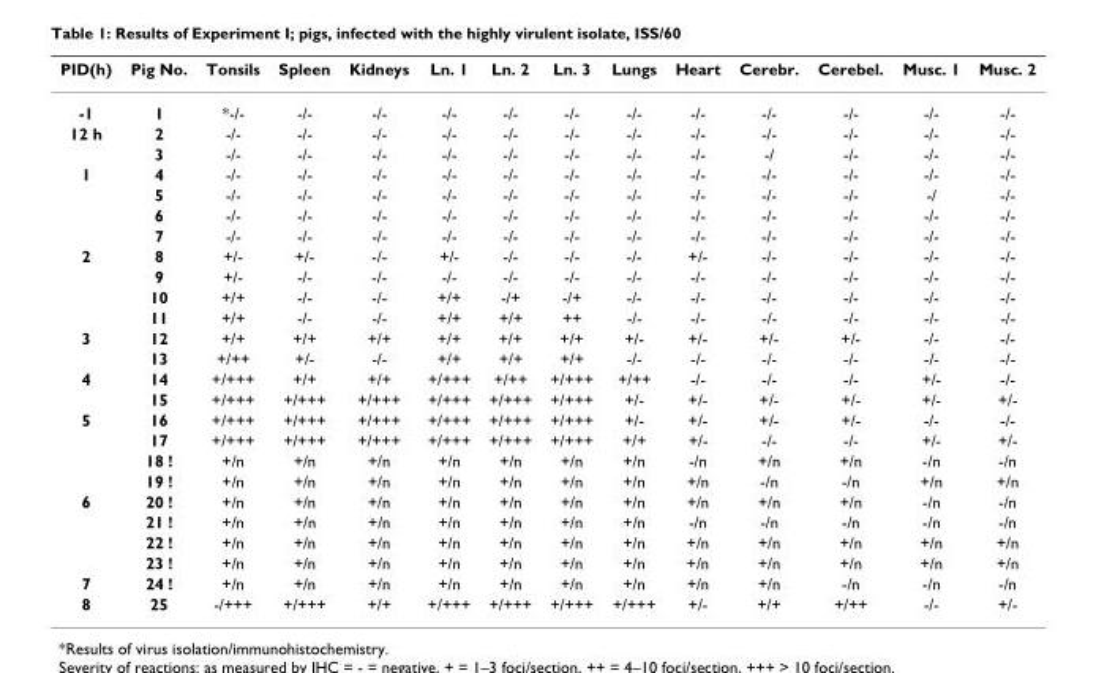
<table><thead><tr><td>PID(h)</td><td>Pig No.</td><td>Tonsils</td><td>Spleen</td><td>Kidneys</td><td>Ln. 1</td><td>Ln. 2</td><td>Ln. 3</td><td>Lungs</td><td>Heart</td><td>Cerebr.</td><td>Cerebel.</td><td>Musc. 1</td><td>Musc. 2</td></tr></thead><tbody><tr><td>-1</td><td>1</td><td>*-/-</td><td>-/-</td><td>-/-</td><td>-/-</td><td>-/-</td><td>-/-</td><td>-/-</td><td>-/-</td><td>-/-</td><td>-/-</td><td>-/-</td><td>-/-</td></tr><tr><td rowspan="2">12 h</td><td>2</td><td>-/-</td><td>-/-</td><td>-/-</td><td>-/-</td><td>-/-</td><td>-/-</td><td>-/-</td><td>-/-</td><td>-/-</td><td>-/-</td><td>-/-</td><td>-/-</td></tr><tr><td>3</td><td>-/-</td><td>-/-</td><td>-/-</td><td>-/-</td><td>-/-</td><td>-/-</td><td>-/-</td><td>-/-</td><td>-/</td><td>-/-</td><td>-/-</td><td>-/-</td></tr><tr><td rowspan="4">1</td><td>4</td><td>-/-</td><td>-/-</td><td>-/-</td><td>-/-</td><td>-/-</td><td>-/-</td><td>-/-</td><td>-/-</td><td>-/-</td><td>-/-</td><td>-/-</td><td>-/-</td></tr><tr><td>5</td><td>-/-</td><td>-/-</td><td>-/-</td><td>-/-</td><td>-/-</td><td>-/-</td><td>-/-</td><td>-/-</td><td>-/-</td><td>-/-</td><td>-/</td><td>-/-</td></tr><tr><td>6</td><td>-/-</td><td>-/-</td><td>-/-</td><td>-/-</td><td>-/-</td><td>-/-</td><td>-/-</td><td>-/-</td><td>-/-</td><td>-/-</td><td>-/-</td><td>-/-</td></tr><tr><td>7</td><td>-/-</td><td>-/-</td><td>-/-</td><td>-/-</td><td>-/-</td><td>-/-</td><td>-/-</td><td>-/-</td><td>-/-</td><td>-/-</td><td>-/-</td><td>-/-</td></tr><tr><td rowspan="4">2</td><td>8</td><td>+/-</td><td>+/-</td><td>-/-</td><td>+/-</td><td>-/-</td><td>-/-</td><td>-/-</td><td>+/-</td><td>-/-</td><td>-/-</td><td>-/-</td><td>-/-</td></tr><tr><td>9</td><td>+/-</td><td>-/-</td><td>-/-</td><td>-/-</td><td>-/-</td><td>-/-</td><td>-/-</td><td>-/-</td><td>-/-</td><td>-/-</td><td>-/-</td><td>-/-</td></tr><tr><td>10</td><td>+/+</td><td>-/-</td><td>-/-</td><td>+/+</td><td>-/+</td><td>-/+</td><td>-/-</td><td>-/-</td><td>-/-</td><td>-/-</td><td>-/-</td><td>-/-</td></tr><tr><td>11</td><td>+/+</td><td>-/-</td><td>-/-</td><td>+/+</td><td>+/+</td><td>++</td><td>-/-</td><td>-/-</td><td>-/-</td><td>-/-</td><td>-/-</td><td>-/-</td></tr><tr><td rowspan="2">3</td><td>12</td><td>+/+</td><td>+/+</td><td>+/+</td><td>+/+</td><td>+/+</td><td>+/+</td><td>+/-</td><td>+/-</td><td>+/-</td><td>+/-</td><td>-/-</td><td>-/-</td></tr><tr><td>13</td><td>+/++</td><td>+/-</td><td>-/-</td><td>+/+</td><td>+/+</td><td>+/+</td><td>-/-</td><td>-/-</td><td>-/-</td><td>-/-</td><td>-/-</td><td>-/-</td></tr><tr><td rowspan="2">4</td><td>14</td><td>+/+++</td><td>+/+</td><td>+/+</td><td>+/+++</td><td>+/++</td><td>+/+++</td><td>+/++</td><td>-/-</td><td>-/-</td><td>-/-</td><td>+/-</td><td>-/-</td></tr><tr><td>15</td><td>+/+++</td><td>+/+++</td><td>+/+++</td><td>+/+++</td><td>+/+++</td><td>+/+++</td><td>+/-</td><td>+/-</td><td>+/-</td><td>+/-</td><td>+/-</td><td>+/-</td></tr><tr><td rowspan="4">5</td><td>16</td><td>+/+++</td><td>+/+++</td><td>+/+++</td><td>+/+++</td><td>+/+++</td><td>+/+++</td><td>+/-</td><td>+/-</td><td>+/-</td><td>+/-</td><td>-/-</td><td>-/-</td></tr><tr><td>17</td><td>+/+++</td><td>+/+++</td><td>+/+++</td><td>+/+++</td><td>+/+++</td><td>+/+++</td><td>+/+</td><td>+/-</td><td>-/-</td><td>-/-</td><td>+/-</td><td>+/-</td></tr><tr><td>18 !</td><td>+/n</td><td>+/n</td><td>+/n</td><td>+/n</td><td>+/n</td><td>+/n</td><td>+/n</td><td>-/n</td><td>+/n</td><td>+/n</td><td>-/n</td><td>-/n</td></tr><tr><td>19 !</td><td>+/n</td><td>+/n</td><td>+/n</td><td>+/n</td><td>+/n</td><td>+/n</td><td>+/n</td><td>+/n</td><td>-/n</td><td>-/n</td><td>+/n</td><td>+/n</td></tr><tr><td rowspan="4">6</td><td>20 !</td><td>+/n</td><td>+/n</td><td>+/n</td><td>+/n</td><td>+/n</td><td>+/n</td><td>+/n</td><td>+/n</td><td>+/n</td><td>+/n</td><td>-/n</td><td>-/n</td></tr><tr><td>21 !</td><td>+/n</td><td>+/n</td><td>+/n</td><td>+/n</td><td>+/n</td><td>+/n</td><td>+/n</td><td>-/n</td><td>-/n</td><td>-/n</td><td>-/n</td><td>-/n</td></tr><tr><td>22 !</td><td>+/n</td><td>+/n</td><td>+/n</td><td>+/n</td><td>+/n</td><td>+/n</td><td>+/n</td><td>+/n</td><td>+/n</td><td>+/n</td><td>+/n</td><td>+/n</td></tr><tr><td>23 !</td><td>+/n</td><td>+/n</td><td>+/n</td><td>+/n</td><td>+/n</td><td>+/n</td><td>+/n</td><td>+/n</td><td>+/n</td><td>+/n</td><td>+/n</td><td>+/n</td></tr><tr><td>7</td><td>24 !</td><td>+/n</td><td>+/n</td><td>+/n</td><td>+/n</td><td>+/n</td><td>+/n</td><td>+/n</td><td>+/n</td><td>+/n</td><td>-/n</td><td>-/n</td><td>-/n</td></tr><tr><td>8</td><td>25</td><td>-/+++</td><td>+/+++</td><td>+/+</td><td>+/+++</td><td>+/+++</td><td>+/+++</td><td>+/+++</td><td>+/-</td><td>+/+</td><td>+/++</td><td>-/-</td><td>+/-</td></tr></tbody></table>